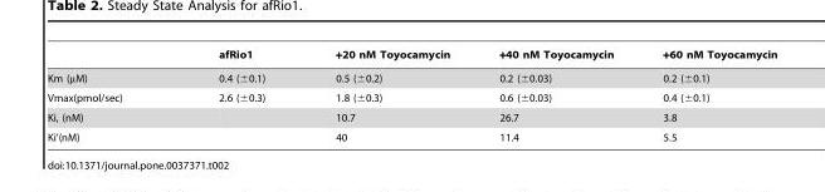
<table><thead><tr><td></td><td>afRio1</td><td>+20 nM Toyocamycin</td><td>+40 nM Toyocamycin</td><td>+60 nM Toyocamycin</td></tr></thead><tbody><tr><td>Km (µM)</td><td>0.4 (±0.1)</td><td>0.5 (±0.2)</td><td>0.2 (±0.03)</td><td>0.2 (±0.1)</td></tr><tr><td>Vmax(pmol/sec)</td><td>2.6 (±0.3)</td><td>1.8 (±0.3)</td><td>0.6 (±0.03)</td><td>0.4 (±0.1)</td></tr><tr><td>Ki, (nM)</td><td></td><td>10.7</td><td>26.7</td><td>3.8</td></tr><tr><td>Ki’(nM)</td><td></td><td>40</td><td>11.4</td><td>5.5</td></tr></tbody></table>